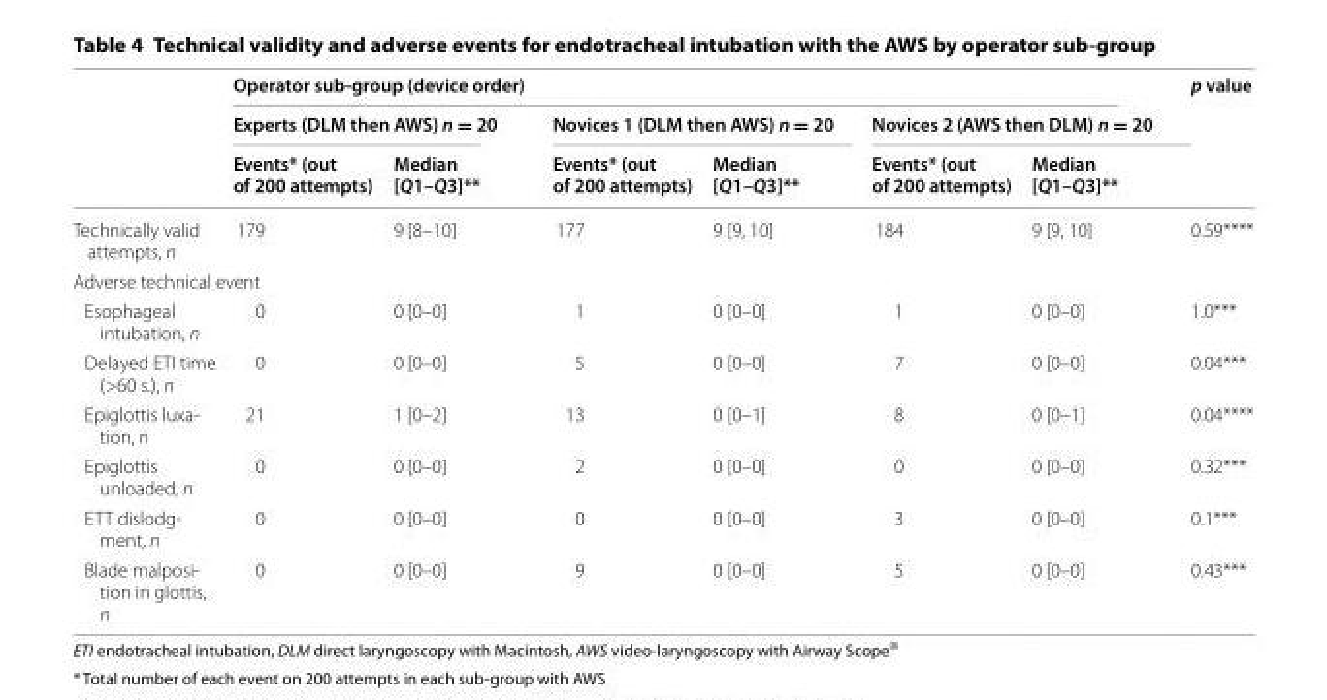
<table><thead><tr><td rowspan="3"></td><td colspan="6">Operator sub-group (device order)</td><td rowspan="3">p value</td></tr><tr><td colspan="2">Experts (DLM then AWS) n = 20</td><td colspan="2">Novices 1 (DLM then AWS) n = 20</td><td colspan="2">Novices 2 (AWS then DLM) n = 20</td></tr><tr><td>Events* (out of 200 attempts)</td><td>Median [Q1–Q3]**</td><td>Events* (out of 200 attempts)</td><td>Median [Q1–Q3]**</td><td>Events* (out of 200 attempts)</td><td>Median [Q1–Q3]**</td></tr></thead><tbody><tr><td>Technically valid attempts, n</td><td>179</td><td>9 [8–10]</td><td>177</td><td>9 [9, 10]</td><td>184</td><td>9 [9, 10]</td><td>0.59****</td></tr><tr><td colspan="8">Adverse technical event</td></tr><tr><td>Esophageal intubation, n</td><td>0</td><td>0 [0–0]</td><td>1</td><td>0 [0–0]</td><td>1</td><td>0 [0–0]</td><td>1.0***</td></tr><tr><td>Delayed ETI time (&gt;60 s.), n</td><td>0</td><td>0 [0–0]</td><td>5</td><td>0 [0–0]</td><td>7</td><td>0 [0–0]</td><td>0.04***</td></tr><tr><td>Epiglottis luxa‑ tion, n</td><td>21</td><td>1 [0–2]</td><td>13</td><td>0 [0–1]</td><td>8</td><td>0 [0–1]</td><td>0.04****</td></tr><tr><td>Epiglottis unloaded, n</td><td>0</td><td>0 [0–0]</td><td>2</td><td>0 [0–0]</td><td>0</td><td>0 [0–0]</td><td>0.32***</td></tr><tr><td>ETT dislodg‑ ment, n</td><td>0</td><td>0 [0–0]</td><td>0</td><td>0 [0–0]</td><td>3</td><td>0 [0–0]</td><td>0.1***</td></tr><tr><td>Blade malposi‑ tion in glottis, n</td><td>0</td><td>0 [0–0]</td><td>9</td><td>0 [0–0]</td><td>5</td><td>0 [0–0]</td><td>0.43***</td></tr></tbody></table>